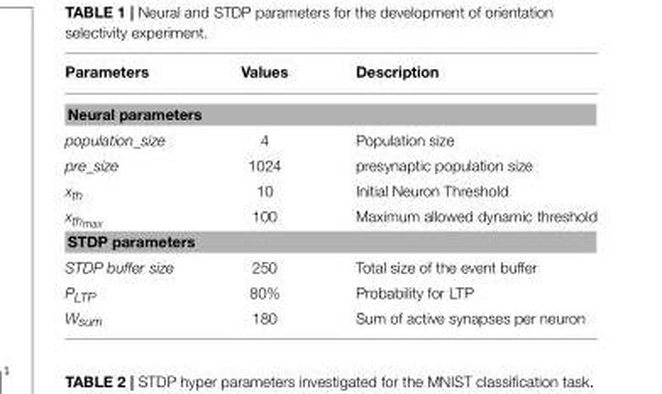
<table><thead><tr><td>Parameters</td><td>Values</td><td>Description</td></tr></thead><tbody><tr><td colspan="3">Neural parameters</td></tr><tr><td>population_size</td><td>4</td><td>Population size</td></tr><tr><td>pre_size</td><td>1024</td><td>presynaptic population size</td></tr><tr><td>x<sub>th</sub></td><td>10</td><td>Initial Neuron Threshold</td></tr><tr><td>xthmax</td><td>100</td><td>Maximum allowed dynamic threshold</td></tr><tr><td colspan="3">STDP parameters</td></tr><tr><td>STDP buffer size</td><td>250</td><td>Total size of the event buffer</td></tr><tr><td>P<sub>LTP</sub></td><td>80%</td><td>Probability for LTP</td></tr><tr><td>W<sub>sum</sub></td><td>180</td><td>Sum of active synapses per neuron</td></tr></tbody></table>